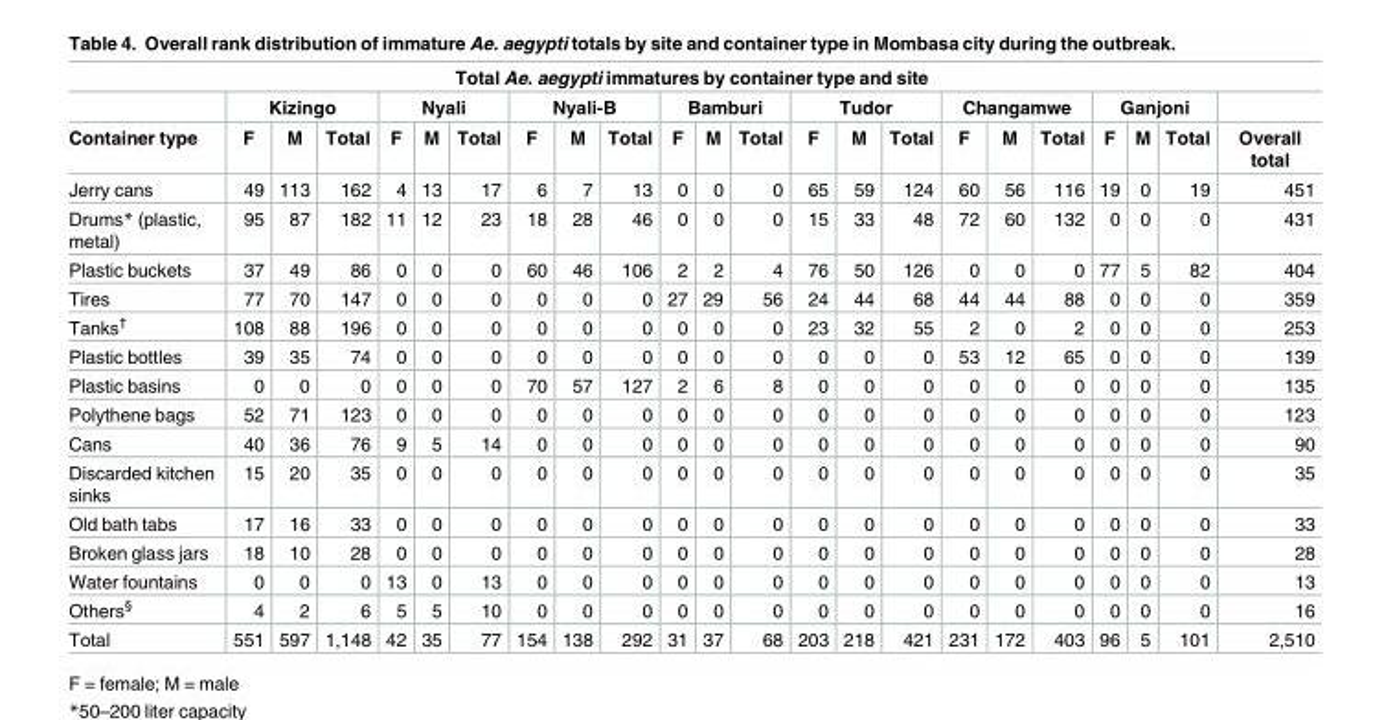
<table><thead><tr><td colspan="23">Total Ae. aegypti immatures by container type and site</td></tr><tr><td rowspan="2">Container type</td><td colspan="3">Kizingo</td><td colspan="3">Nyali</td><td colspan="3">Nyali-B</td><td colspan="3">Bamburi</td><td colspan="3">Tudor</td><td colspan="3">Changamwe</td><td colspan="3">Ganjoni</td><td rowspan="2">Overall total</td></tr><tr><td>F</td><td>M</td><td>Total</td><td>F</td><td>M</td><td>Total</td><td>F</td><td>M</td><td>Total</td><td>F</td><td>M</td><td>Total</td><td>F</td><td>M</td><td>Total</td><td>F</td><td>M</td><td>Total</td><td>F</td><td>M</td><td>Total</td></tr></thead><tbody><tr><td>Jerry cans</td><td>49</td><td>113</td><td>162</td><td>4</td><td>13</td><td>17</td><td>6</td><td>7</td><td>13</td><td>0</td><td>0</td><td>0</td><td>65</td><td>59</td><td>124</td><td>60</td><td>56</td><td>116</td><td>19</td><td>0</td><td>19</td><td>451</td></tr><tr><td>Drums* (plastic, metal)</td><td>95</td><td>87</td><td>182</td><td>11</td><td>12</td><td>23</td><td>18</td><td>28</td><td>46</td><td>0</td><td>0</td><td>0</td><td>15</td><td>33</td><td>48</td><td>72</td><td>60</td><td>132</td><td>0</td><td>0</td><td>0</td><td>431</td></tr><tr><td>Plastic buckets</td><td>37</td><td>49</td><td>86</td><td>0</td><td>0</td><td>0</td><td>60</td><td>46</td><td>106</td><td>2</td><td>2</td><td>4</td><td>76</td><td>50</td><td>126</td><td>0</td><td>0</td><td>0</td><td>77</td><td>5</td><td>82</td><td>404</td></tr><tr><td>Tires</td><td>77</td><td>70</td><td>147</td><td>0</td><td>0</td><td>0</td><td>0</td><td>0</td><td>0</td><td>27</td><td>29</td><td>56</td><td>24</td><td>44</td><td>68</td><td>44</td><td>44</td><td>88</td><td>0</td><td>0</td><td>0</td><td>359</td></tr><tr><td>Tanks<sup>†</sup></td><td>108</td><td>88</td><td>196</td><td>0</td><td>0</td><td>0</td><td>0</td><td>0</td><td>0</td><td>0</td><td>0</td><td>0</td><td>23</td><td>32</td><td>55</td><td>2</td><td>0</td><td>2</td><td>0</td><td>0</td><td>0</td><td>253</td></tr><tr><td>Plastic bottles</td><td>39</td><td>35</td><td>74</td><td>0</td><td>0</td><td>0</td><td>0</td><td>0</td><td>0</td><td>0</td><td>0</td><td>0</td><td>0</td><td>0</td><td>0</td><td>53</td><td>12</td><td>65</td><td>0</td><td>0</td><td>0</td><td>139</td></tr><tr><td>Plastic basins</td><td>0</td><td>0</td><td>0</td><td>0</td><td>0</td><td>0</td><td>70</td><td>57</td><td>127</td><td>2</td><td>6</td><td>8</td><td>0</td><td>0</td><td>0</td><td>0</td><td>0</td><td>0</td><td>0</td><td>0</td><td>0</td><td>135</td></tr><tr><td>Polythene bags</td><td>52</td><td>71</td><td>123</td><td>0</td><td>0</td><td>0</td><td>0</td><td>0</td><td>0</td><td>0</td><td>0</td><td>0</td><td>0</td><td>0</td><td>0</td><td>0</td><td>0</td><td>0</td><td>0</td><td>0</td><td>0</td><td>123</td></tr><tr><td>Cans</td><td>40</td><td>36</td><td>76</td><td>9</td><td>5</td><td>14</td><td>0</td><td>0</td><td>0</td><td>0</td><td>0</td><td>0</td><td>0</td><td>0</td><td>0</td><td>0</td><td>0</td><td>0</td><td>0</td><td>0</td><td>0</td><td>90</td></tr><tr><td>Discarded kitchen sinks</td><td>15</td><td>20</td><td>35</td><td>0</td><td>0</td><td>0</td><td>0</td><td>0</td><td>0</td><td>0</td><td>0</td><td>0</td><td>0</td><td>0</td><td>0</td><td>0</td><td>0</td><td>0</td><td>0</td><td>0</td><td>0</td><td>35</td></tr><tr><td>Old bath tabs</td><td>17</td><td>16</td><td>33</td><td>0</td><td>0</td><td>0</td><td>0</td><td>0</td><td>0</td><td>0</td><td>0</td><td>0</td><td>0</td><td>0</td><td>0</td><td>0</td><td>0</td><td>0</td><td>0</td><td>0</td><td>0</td><td>33</td></tr><tr><td>Broken glass jars</td><td>18</td><td>10</td><td>28</td><td>0</td><td>0</td><td>0</td><td>0</td><td>0</td><td>0</td><td>0</td><td>0</td><td>0</td><td>0</td><td>0</td><td>0</td><td>0</td><td>0</td><td>0</td><td>0</td><td>0</td><td>0</td><td>28</td></tr><tr><td>Water fountains</td><td>0</td><td>0</td><td>0</td><td>13</td><td>0</td><td>13</td><td>0</td><td>0</td><td>0</td><td>0</td><td>0</td><td>0</td><td>0</td><td>0</td><td>0</td><td>0</td><td>0</td><td>0</td><td>0</td><td>0</td><td>0</td><td>13</td></tr><tr><td>Others<sup>§</sup></td><td>4</td><td>2</td><td>6</td><td>5</td><td>5</td><td>10</td><td>0</td><td>0</td><td>0</td><td>0</td><td>0</td><td>0</td><td>0</td><td>0</td><td>0</td><td>0</td><td>0</td><td>0</td><td>0</td><td>0</td><td>0</td><td>16</td></tr><tr><td>Total</td><td>551</td><td>597</td><td>1,148</td><td>42</td><td>35</td><td>77</td><td>154</td><td>138</td><td>292</td><td>31</td><td>37</td><td>68</td><td>203</td><td>218</td><td>421</td><td>231</td><td>172</td><td>403</td><td>96</td><td>5</td><td>101</td><td>2,510</td></tr></tbody></table>